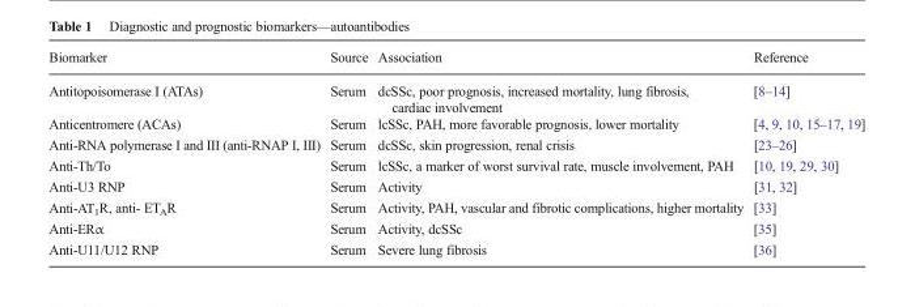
<table><thead><tr><td>Biomarker</td><td>Source</td><td>Association</td><td>Reference</td></tr></thead><tbody><tr><td>Antitopoisomerase I (ATAs)</td><td>Serum</td><td>dcSSc, poor prognosis, increased mortality, lung fibrosis, cardiac involvement</td><td>[8–14]</td></tr><tr><td>Anticentromere (ACAs)</td><td>Serum</td><td>lcSSc, PAH, more favorable prognosis, lower mortality</td><td>[4, 9, 10, 15–17, 19]</td></tr><tr><td>Anti-RNA polymerase I and III (anti-RNAP I, III)</td><td>Serum</td><td>dcSSc, skin progression, renal crisis</td><td>[23–26]</td></tr><tr><td>Anti-Th/To</td><td>Serum</td><td>lcSSc, a marker of worst survival rate, muscle involvement, PAH</td><td>[10, 19, 29, 30]</td></tr><tr><td>Anti-U3 RNP</td><td>Serum</td><td>Activity</td><td>[31, 32]</td></tr><tr><td>Anti-AT<sub>1</sub>R, anti- ET<sub>A</sub>R</td><td>Serum</td><td>Activity, PAH, vascular and fibrotic complications, higher mortality</td><td>[33]</td></tr><tr><td>Anti-ERα</td><td>Serum</td><td>Activity, dcSSc</td><td>[35]</td></tr><tr><td>Anti-U11/U12 RNP</td><td>Serum</td><td>Severe lung fibrosis</td><td>[36]</td></tr></tbody></table>